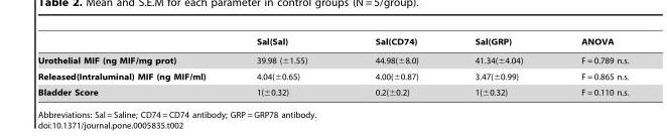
<table><thead><tr><td></td><td>Sal(Sal)</td><td>Sal(CD74)</td><td>Sal(GRP)</td><td>ANOVA</td></tr></thead><tbody><tr><td>Urothelial MIF (ng MIF/mg prot)</td><td>39.98 (±1.55)</td><td>44.98(±8.0)</td><td>41.34(±4.04)</td><td>F = 0.789 n.s.</td></tr><tr><td>Released(Intraluminal) MIF (ng MIF/ml)</td><td>4.04(±0.65)</td><td>4.00(±0.87)</td><td>3.47(±0.99)</td><td>F = 0.865 n.s.</td></tr><tr><td>Bladder Score</td><td>1(±0.32)</td><td>0.2(±0.2)</td><td>1(±0.32)</td><td>F = 0.110 n.s.</td></tr></tbody></table>